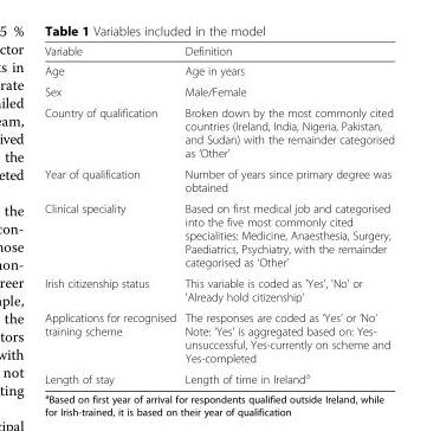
<table><thead><tr><td>Variable</td><td>Definition</td></tr></thead><tbody><tr><td>Age</td><td>Age in years</td></tr><tr><td>Sex</td><td>Male/Female</td></tr><tr><td>Country of qualification</td><td>Broken down by the most commonly cited countries (Ireland, India, Nigeria, Pakistan, and Sudan) with the remainder categorised as ‘Other’</td></tr><tr><td>Year of qualification</td><td>Number of years since primary degree was obtained</td></tr><tr><td>Clinical speciality</td><td>Based on first medical job and categorised into the five most commonly cited specialities: Medicine, Anaesthesia, Surgery, Paediatrics, Psychiatry, with the remainder categorised as ‘Other’</td></tr><tr><td>Irish citizenship status</td><td>This variable is coded as &#x27;Yes&#x27;, &#x27;No&#x27; or &#x27;Already hold citizenship&#x27;</td></tr><tr><td>Applications for recognised training scheme</td><td>The responses are coded as ‘Yes’ or ‘No’ Note: ‘Yes’ is aggregated based on: Yes- unsuccessful, Yes-currently on scheme and Yes-completed</td></tr><tr><td>Length of stay</td><td>Length of time in Ireland<sup>a</sup></td></tr></tbody></table>